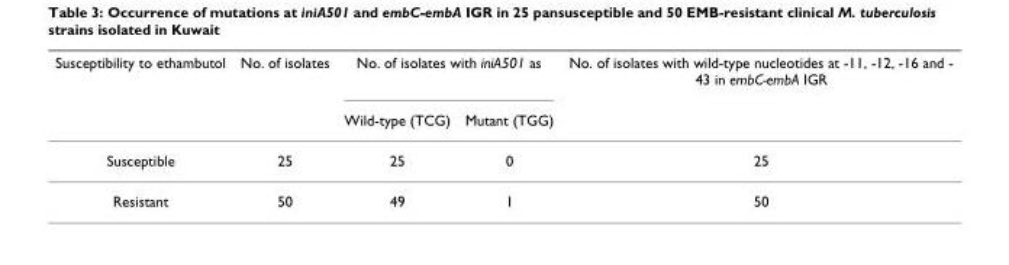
<table><thead><tr><td rowspan="2">Susceptibility to ethambutol</td><td rowspan="2">No. of isolates</td><td colspan="2">No. of isolates with iniA501 as</td><td rowspan="2">No. of isolates with wild-type nucleotides at -11, -12, -16 and - 43 in embC-embA IGR</td></tr><tr><td>Wild-type (TCG)</td><td>Mutant (TGG)</td></tr></thead><tbody><tr><td>Susceptible</td><td>25</td><td>25</td><td>0</td><td>25</td></tr><tr><td>Resistant</td><td>50</td><td>49</td><td>1</td><td>50</td></tr></tbody></table>